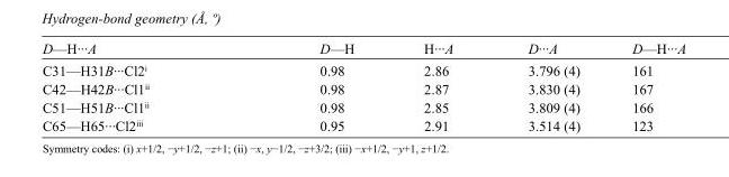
<table><tbody><tr><td>D—H···A</td><td>D—H</td><td>H···A</td><td>D···A</td><td>D—H···A</td></tr><tr><td>C31—H31B···Cl2<sup>i</sup></td><td>0.98</td><td>2.86</td><td>3.796 (4)</td><td>161</td></tr><tr><td>C42—H42B···Cl1<sup>ii</sup></td><td>0.98</td><td>2.87</td><td>3.830 (4)</td><td>167</td></tr><tr><td>C51—H51B···Cl1<sup>ii</sup></td><td>0.98</td><td>2.85</td><td>3.809 (4)</td><td>166</td></tr><tr><td>C65—H65···Cl2<sup>iii</sup></td><td>0.95</td><td>2.91</td><td>3.514 (4)</td><td>123</td></tr></tbody></table>